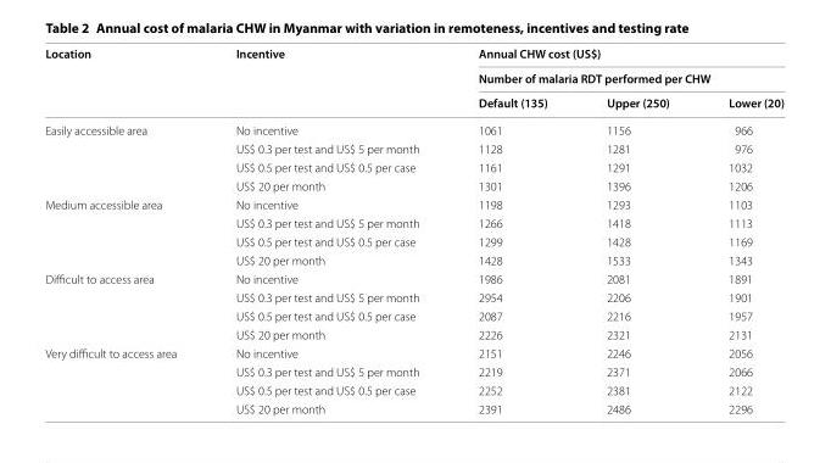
<table><thead><tr><td rowspan="3">Location</td><td rowspan="3">Incentive</td><td rowspan="2" colspan="3">Annual CHW cost (US$) Number of malaria RDT performed per CHW</td></tr><tr></tr><tr><td>Default (135)</td><td>Upper (250)</td><td>Lower (20)</td></tr></thead><tbody><tr><td rowspan="4">Easily accessible area</td><td>No incentive</td><td>1061</td><td>1156</td><td>966</td></tr><tr><td>US$ 0.3 per test and US$ 5 per month</td><td>1128</td><td>1281</td><td>976</td></tr><tr><td>US$ 0.5 per test and US$ 0.5 per case</td><td>1161</td><td>1291</td><td>1032</td></tr><tr><td>US$ 20 per month</td><td>1301</td><td>1396</td><td>1206</td></tr><tr><td rowspan="4">Medium accessible area</td><td>No incentive</td><td>1198</td><td>1293</td><td>1103</td></tr><tr><td>US$ 0.3 per test and US$ 5 per month</td><td>1266</td><td>1418</td><td>1113</td></tr><tr><td>US$ 0.5 per test and US$ 0.5 per case</td><td>1299</td><td>1428</td><td>1169</td></tr><tr><td>US$ 20 per month</td><td>1428</td><td>1533</td><td>1343</td></tr><tr><td rowspan="4">Difficult to access area</td><td>No incentive</td><td>1986</td><td>2081</td><td>1891</td></tr><tr><td>US$ 0.3 per test and US$ 5 per month</td><td>2954</td><td>2206</td><td>1901</td></tr><tr><td>US$ 0.5 per test and US$ 0.5 per case</td><td>2087</td><td>2216</td><td>1957</td></tr><tr><td>US$ 20 per month</td><td>2226</td><td>2321</td><td>2131</td></tr><tr><td rowspan="4">Very difficult to access area</td><td>No incentive</td><td>2151</td><td>2246</td><td>2056</td></tr><tr><td>US$ 0.3 per test and US$ 5 per month</td><td>2219</td><td>2371</td><td>2066</td></tr><tr><td>US$ 0.5 per test and US$ 0.5 per case</td><td>2252</td><td>2381</td><td>2122</td></tr><tr><td>US$ 20 per month</td><td>2391</td><td>2486</td><td>2296</td></tr></tbody></table>